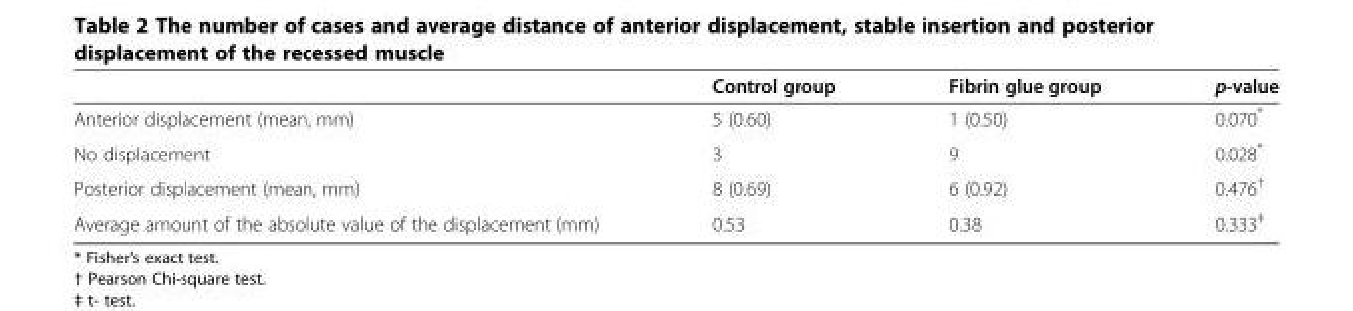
<table><thead><tr><td></td><td>Control group</td><td>Fibrin glue group</td><td>p-value</td></tr></thead><tbody><tr><td>Anterior displacement (mean, mm)</td><td>5 (0.60)</td><td>1 (0.50)</td><td>0.070*</td></tr><tr><td>No displacement</td><td>3</td><td>9</td><td>0.028*</td></tr><tr><td>Posterior displacement (mean, mm)</td><td>8 (0.69)</td><td>6 (0.92)</td><td>0.476<sup>†</sup></td></tr><tr><td>Average amount of the absolute value of the displacement (mm)</td><td>0.53</td><td>0.38</td><td>0.333<sup>‡</sup></td></tr></tbody></table>